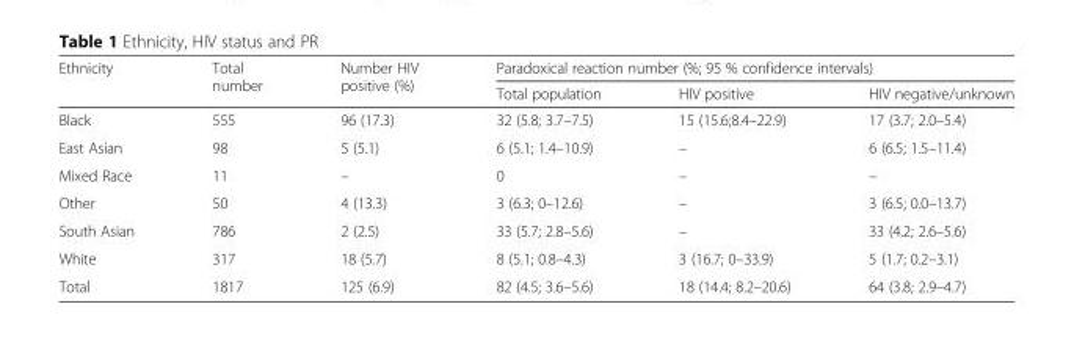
<table><thead><tr><td rowspan="2">Ethnicity</td><td rowspan="2">Total number</td><td rowspan="2">Number HIV positive (%)</td><td colspan="3">Paradoxical reaction number (%; 95 % confidence intervals)</td></tr><tr><td>Total population</td><td>HIV positive</td><td>HIV negative/unknown</td></tr></thead><tbody><tr><td>Black</td><td>555</td><td>96 (17.3)</td><td>32 (5.8; 3.7–7.5)</td><td>15 (15.6;8.4–22.9)</td><td>17 (3.7; 2.0–5.4)</td></tr><tr><td>East Asian</td><td>98</td><td>5 (5.1)</td><td>6 (5.1; 1.4–10.9)</td><td>–</td><td>6 (6.5; 1.5–11.4)</td></tr><tr><td>Mixed Race</td><td>11</td><td>–</td><td>0</td><td>–</td><td>–</td></tr><tr><td>Other</td><td>50</td><td>4 (13.3)</td><td>3 (6.3; 0–12.6)</td><td>–</td><td>3 (6.5; 0.0–13.7)</td></tr><tr><td>South Asian</td><td>786</td><td>2 (2.5)</td><td>33 (5.7; 2.8–5.6)</td><td>–</td><td>33 (4.2; 2.6–5.6)</td></tr><tr><td>White</td><td>317</td><td>18 (5.7)</td><td>8 (5.1; 0.8–4.3)</td><td>3 (16.7; 0–33.9)</td><td>5 (1.7; 0.2–3.1)</td></tr><tr><td>Total</td><td>1817</td><td>125 (6.9)</td><td>82 (4.5; 3.6–5.6)</td><td>18 (14.4; 8.2–20.6)</td><td>64 (3.8; 2.9–4.7)</td></tr></tbody></table>